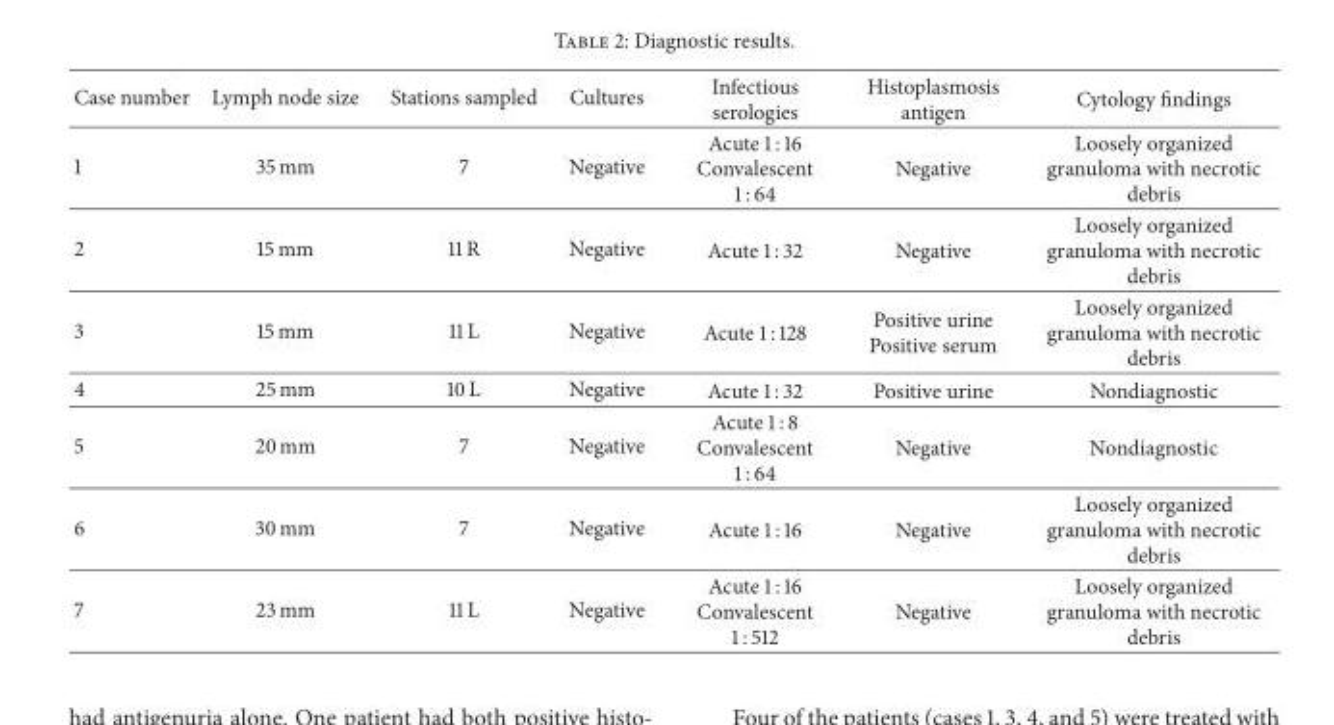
<table><thead><tr><td>Case number</td><td>Lymph node size</td><td>Stations sampled</td><td>Cultures</td><td>Infectious serologies</td><td>Histoplasmosis antigen</td><td>Cytology findings</td></tr></thead><tbody><tr><td>1</td><td>35 mm</td><td>7</td><td>Negative</td><td>Acute 1 : 16 Convalescent 1 : 64</td><td>Negative</td><td>Loosely organized granuloma with necrotic debris</td></tr><tr><td>2</td><td>15 mm</td><td>11 R</td><td>Negative</td><td>Acute 1 : 32</td><td>Negative</td><td>Loosely organized granuloma with necrotic debris</td></tr><tr><td>3</td><td>15 mm</td><td>11 L</td><td>Negative</td><td>Acute 1 : 128</td><td>Positive urine Positive serum</td><td>Loosely organized granuloma with necrotic debris</td></tr><tr><td>4</td><td>25 mm</td><td>10 L</td><td>Negative</td><td>Acute 1 : 32</td><td>Positive urine</td><td>Nondiagnostic</td></tr><tr><td>5</td><td>20 mm</td><td>7</td><td>Negative</td><td>Acute 1 : 8 Convalescent 1 : 64</td><td>Negative</td><td>Nondiagnostic</td></tr><tr><td>6</td><td>30 mm</td><td>7</td><td>Negative</td><td>Acute 1 : 16</td><td>Negative</td><td>Loosely organized granuloma with necrotic debris</td></tr><tr><td>7</td><td>23 mm</td><td>11 L</td><td>Negative</td><td>Acute 1 : 16 Convalescent 1 : 512</td><td>Negative</td><td>Loosely organized granuloma with necrotic debris</td></tr></tbody></table>